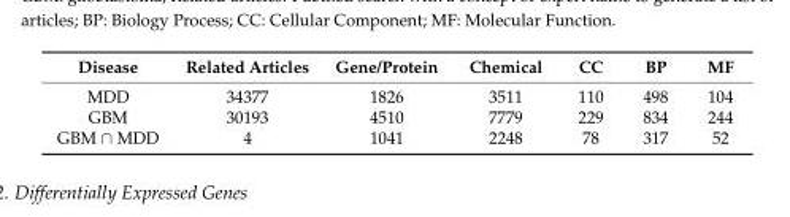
<table><thead><tr><td>Disease</td><td>Related Articles</td><td>Gene/Protein</td><td>Chemical</td><td>CC</td><td>BP</td><td>MF</td></tr></thead><tbody><tr><td>MDD</td><td>34377</td><td>1826</td><td>3511</td><td>110</td><td>498</td><td>104</td></tr><tr><td>GBM</td><td>30193</td><td>4510</td><td>7779</td><td>229</td><td>834</td><td>244</td></tr><tr><td>GBM ∩ MDD</td><td>4</td><td>1041</td><td>2248</td><td>78</td><td>317</td><td>52</td></tr></tbody></table>